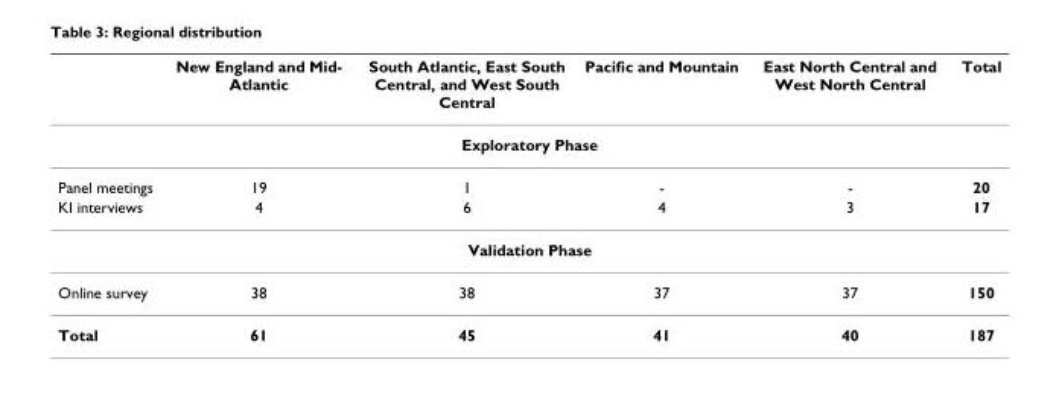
<table><thead><tr><td></td><td>New England and Mid- Atlantic</td><td>South Atlantic, East South Central, and West South Central</td><td>Pacific and Mountain</td><td>East North Central and West North Central</td><td>Total</td></tr></thead><tbody><tr><td colspan="6">Exploratory Phase</td></tr><tr><td>Panel meetings</td><td>19</td><td>1</td><td>-</td><td>-</td><td>20</td></tr><tr><td>KI interviews</td><td>4</td><td>6</td><td>4</td><td>3</td><td>17</td></tr><tr><td colspan="6">Validation Phase</td></tr><tr><td>Online survey</td><td>38</td><td>38</td><td>37</td><td>37</td><td>150</td></tr><tr><td>Total</td><td>61</td><td>45</td><td>41</td><td>40</td><td>187</td></tr></tbody></table>